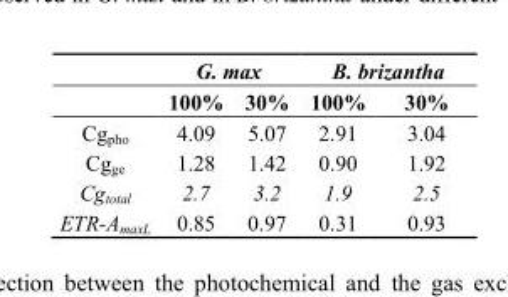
<table><thead><tr><td rowspan="2"></td><td colspan="2">G. max</td><td colspan="2">B. brizantha</td></tr><tr><td>100%</td><td>30%</td><td>100%</td><td>30%</td></tr></thead><tbody><tr><td>Cg<sub>pho</sub></td><td>4.09</td><td>5.07</td><td>2.91</td><td>3.04</td></tr><tr><td>Cg<sub>ge</sub></td><td>1.28</td><td>1.42</td><td>0.90</td><td>1.92</td></tr><tr><td>Cg<sub>total</sub></td><td>2.7</td><td>3.2</td><td>1.9</td><td>2.5</td></tr><tr><td>ETR-A<sub>maxL</sub></td><td>0.85</td><td>0.97</td><td>0.31</td><td>0.93</td></tr></tbody></table>